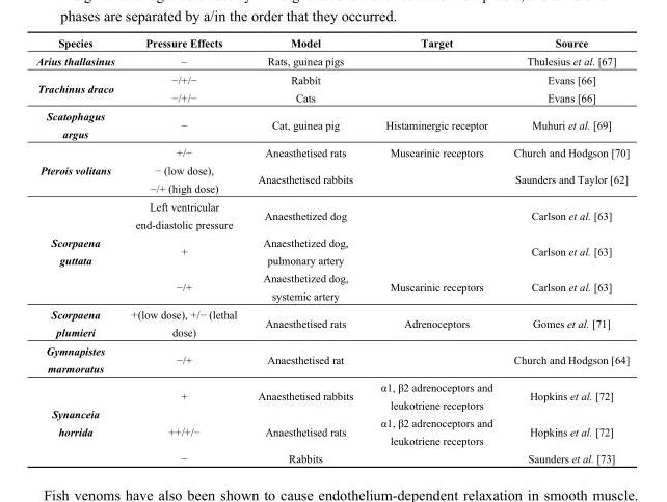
<table><thead><tr><td>Species</td><td>Pressure Effects</td><td>Model</td><td>Target</td><td>Source</td></tr></thead><tbody><tr><td>Arius thallasinus</td><td>–</td><td>Rats, guinea pigs</td><td></td><td>Thulesius et al. [67]</td></tr><tr><td rowspan="2">Trachinus draco</td><td>−/+/−</td><td>Rabbit</td><td></td><td>Evans [66]</td></tr><tr><td>−/+/−</td><td>Cats</td><td></td><td>Evans [66]</td></tr><tr><td>Scatophagus argus</td><td>−</td><td>Cat, guinea pig</td><td>Histaminergic receptor</td><td>Muhuri et al. [69]</td></tr><tr><td rowspan="2">Pterois volitans</td><td>+/−</td><td>Aneasthetised rats</td><td>Muscarinic receptors</td><td>Church and Hodgson [70]</td></tr><tr><td>− (low dose), −/+ (high dose)</td><td>Anaesthetised rabbits</td><td></td><td>Saunders and Taylor [62]</td></tr><tr><td rowspan="3">Scorpaena guttata</td><td>Left ventricular end-diastolic pressure</td><td>Anaesthetized dog</td><td></td><td>Carlson et al. [63]</td></tr><tr><td>+</td><td>Anaesthetized dog, pulmonary artery</td><td></td><td>Carlson et al. [63]</td></tr><tr><td>−/+</td><td>Anaesthetized dog, systemic artery</td><td>Muscarinic receptors</td><td>Carlson et al. [63]</td></tr><tr><td>Scorpaena plumieri</td><td>+(low dose), +/− (lethal dose)</td><td>Anaesthetised rats</td><td>Adrenoceptors</td><td>Gomes et al. [71]</td></tr><tr><td>Gymnapistes marmoratus</td><td>−/+</td><td>Anaesthetised rat</td><td></td><td>Church and Hodgson [64]</td></tr><tr><td rowspan="3">Synanceia horrida</td><td>+</td><td>Anaesthetised rabbits</td><td>α1, β2 adrenoceptors and leukotriene receptors</td><td>Hopkins et al. [72]</td></tr><tr><td>++/+/−</td><td>Anaesthetised rats</td><td>α1, β2 adrenoceptors and leukotriene receptors</td><td>Hopkins et al. [72]</td></tr><tr><td>−</td><td>Rabbits</td><td></td><td>Saunders et al. [73]</td></tr></tbody></table>